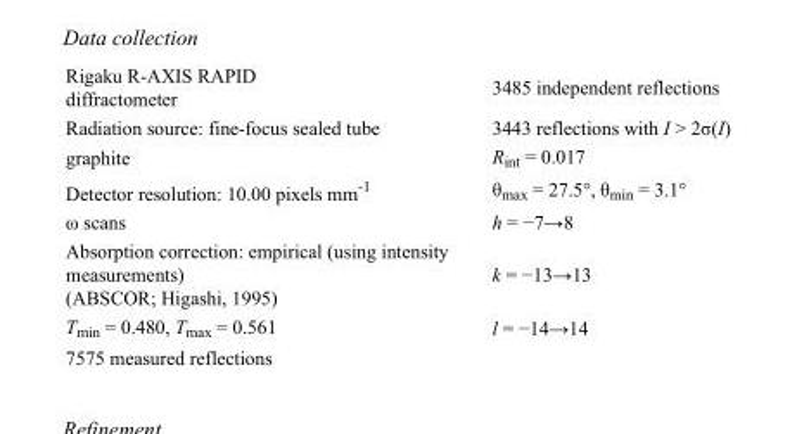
<table><tbody><tr><td>Rigaku R-AXIS RAPID diffractometer</td><td>3485 independent reflections</td></tr><tr><td>Radiation source: fine-focus sealed tube</td><td>3443 reflections with I &gt; 2σ(I)</td></tr><tr><td>graphite</td><td>R<sub>int</sub> = 0.017</td></tr><tr><td>Detector resolution: 10.00 pixels mm<sup>-1</sup></td><td>θ<sub>max</sub> = 27.5°, θ<sub>min</sub> = 3.1°</td></tr><tr><td>ω scans</td><td>h = −7→8</td></tr><tr><td>Absorption correction: empirical (using intensity measurements) (ABSCOR; Higashi, 1995)</td><td>k = −13→13</td></tr><tr><td>T<sub>min</sub> = 0.480, T<sub>max</sub> = 0.561</td><td>l = −14→14</td></tr><tr><td>7575 measured reflections</td><td></td></tr></tbody></table>